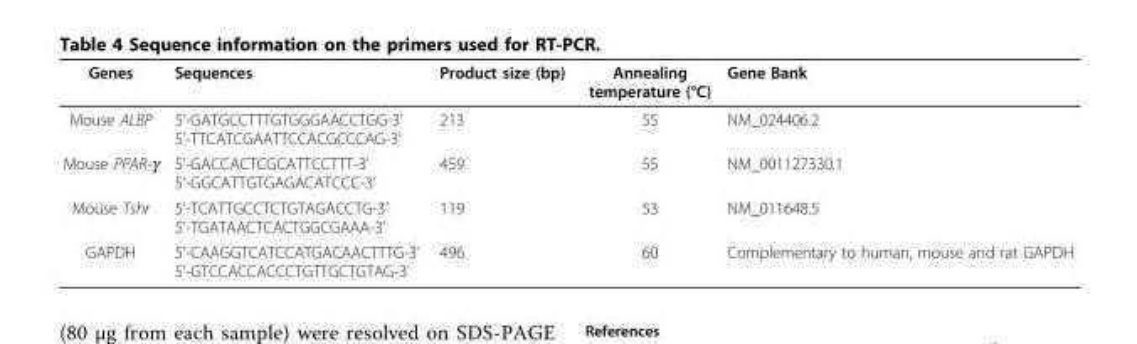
<table><thead><tr><td>Genes</td><td>Sequences</td><td>Product size (bp)</td><td>Annealing temperature (°C)</td><td>Gene Bank</td></tr></thead><tbody><tr><td>Mouse ALBP</td><td>5’-GATGCCTTTGTGGGAACCTGG-3’ 5’-TTCATCGAATTCCACGCCCAG-3’</td><td>213</td><td>55</td><td>NM_024406.2</td></tr><tr><td>Mouse PPAR-γ</td><td>5’-GACCACTCGCATTCCTTT-3’ 5’-GGCATTGTGAGACATCCC-3’</td><td>459</td><td>55</td><td>NM_001127330.1</td></tr><tr><td>Mouse Tshr</td><td>5’-TCATTGCCTCTGTAGACCTG-3’ 5’-TGATAACTCACTGGCGAAA-3’</td><td>119</td><td>53</td><td>NM_011648.5</td></tr><tr><td>GAPDH</td><td>5’-CAAGGTCATCCATGACAACTTTG-3’ 5’-GTCCACCACCCTGTTGCTGTAG-3’</td><td>496</td><td>60</td><td>Complementary to human, mouse and rat GAPDH</td></tr></tbody></table>